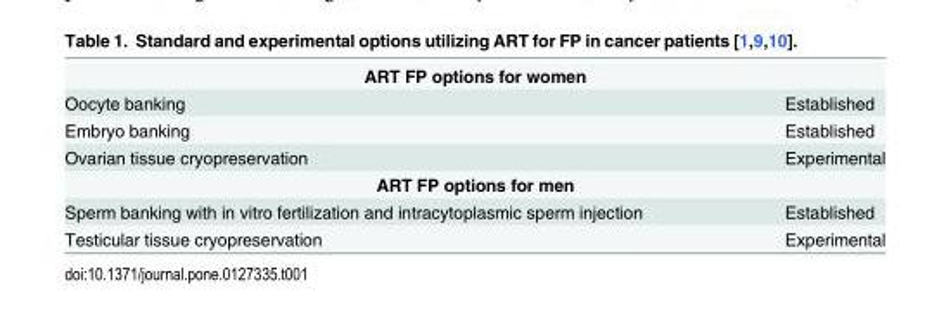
<table><tbody><tr><td colspan="2">ART FP options for women</td></tr><tr><td>Oocyte banking</td><td>Established</td></tr><tr><td>Embryo banking</td><td>Established</td></tr><tr><td>Ovarian tissue cryopreservation</td><td>Experimental</td></tr><tr><td colspan="2">ART FP options for men</td></tr><tr><td>Sperm banking with in vitro fertilization and intracytoplasmic sperm injection</td><td>Established</td></tr><tr><td>Testicular tissue cryopreservation</td><td>Experimental</td></tr></tbody></table>